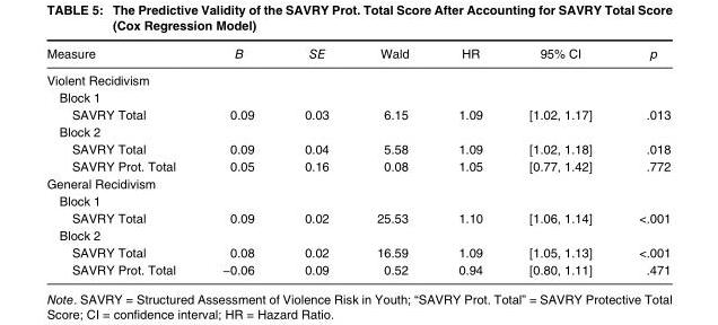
<table><thead><tr><td>Measure</td><td>B</td><td>SE</td><td>Wald</td><td>HR</td><td>95% CI</td><td>p</td></tr></thead><tbody><tr><td colspan="7">Violent Recidivism</td></tr><tr><td colspan="7">Block 1</td></tr><tr><td>SAVRY Total</td><td>0.09</td><td>0.03</td><td>6.15</td><td>1.09</td><td>[1.02, 1.17]</td><td>.013</td></tr><tr><td colspan="7">Block 2</td></tr><tr><td>SAVRY Total</td><td>0.09</td><td>0.04</td><td>5.58</td><td>1.09</td><td>[1.02, 1.18]</td><td>.018</td></tr><tr><td>SAVRY Prot. Total</td><td>0.05</td><td>0.16</td><td>0.08</td><td>1.05</td><td>[0.77, 1.42]</td><td>.772</td></tr><tr><td colspan="7">General Recidivism</td></tr><tr><td colspan="7">Block 1</td></tr><tr><td>SAVRY Total</td><td>0.09</td><td>0.02</td><td>25.53</td><td>1.10</td><td>[1.06, 1.14]</td><td>&lt;.001</td></tr><tr><td colspan="7">Block 2</td></tr><tr><td>SAVRY Total</td><td>0.08</td><td>0.02</td><td>16.59</td><td>1.09</td><td>[1.05, 1.13]</td><td>&lt;.001</td></tr><tr><td>SAVRY Prot. Total</td><td>−0.06</td><td>0.09</td><td>0.52</td><td>0.94</td><td>[0.80, 1.11]</td><td>.471</td></tr></tbody></table>